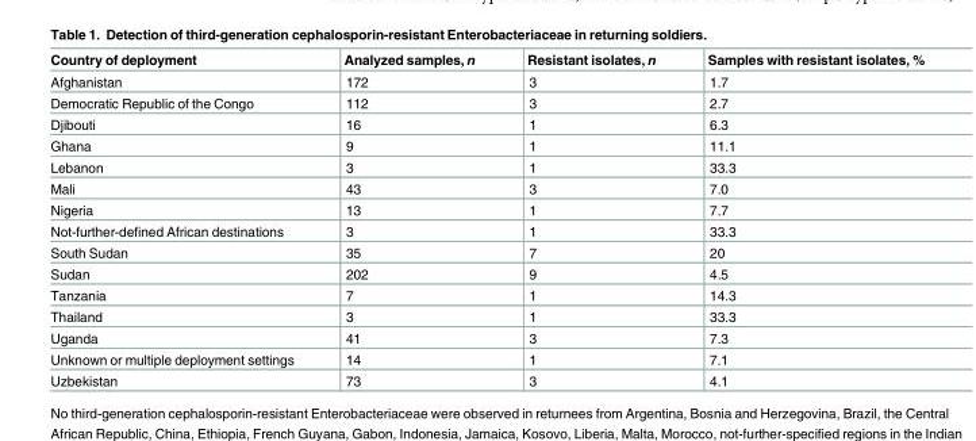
<table><thead><tr><td>Country of deployment</td><td>Analyzed samples, n</td><td>Resistant isolates, n</td><td>Samples with resistant isolates, %</td></tr></thead><tbody><tr><td>Afghanistan</td><td>172</td><td>3</td><td>1.7</td></tr><tr><td>Democratic Republic of the Congo</td><td>112</td><td>3</td><td>2.7</td></tr><tr><td>Djibouti</td><td>16</td><td>1</td><td>6.3</td></tr><tr><td>Ghana</td><td>9</td><td>1</td><td>11.1</td></tr><tr><td>Lebanon</td><td>3</td><td>1</td><td>33.3</td></tr><tr><td>Mali</td><td>43</td><td>3</td><td>7.0</td></tr><tr><td>Nigeria</td><td>13</td><td>1</td><td>7.7</td></tr><tr><td>Not-further-defined African destinations</td><td>3</td><td>1</td><td>33.3</td></tr><tr><td>South Sudan</td><td>35</td><td>7</td><td>20</td></tr><tr><td>Sudan</td><td>202</td><td>9</td><td>4.5</td></tr><tr><td>Tanzania</td><td>7</td><td>1</td><td>14.3</td></tr><tr><td>Thailand</td><td>3</td><td>1</td><td>33.3</td></tr><tr><td>Uganda</td><td>41</td><td>3</td><td>7.3</td></tr><tr><td>Unknown or multiple deployment settings</td><td>14</td><td>1</td><td>7.1</td></tr><tr><td>Uzbekistan</td><td>73</td><td>3</td><td>4.1</td></tr></tbody></table>